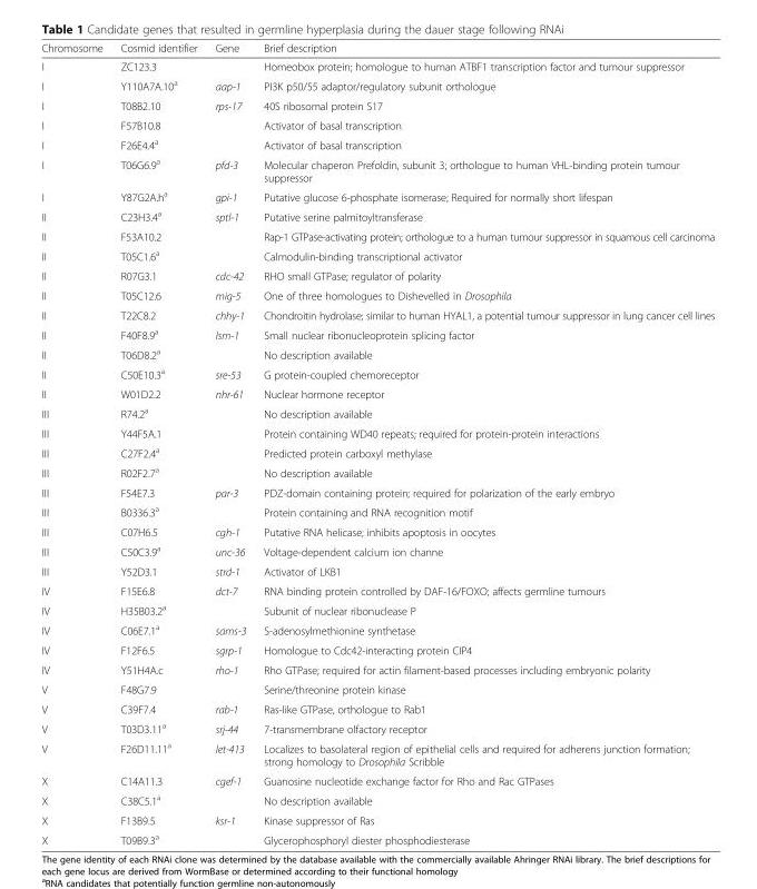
<table><thead><tr><td>Chromosome</td><td>Cosmid identifier</td><td>Gene</td><td>Brief description</td></tr></thead><tbody><tr><td>I</td><td>ZC123.3</td><td></td><td>Homeobox protein; homologue to human ATBF1 transcription factor and tumour suppressor</td></tr><tr><td>I</td><td>Y110A7A.10<sup>a</sup></td><td>aap-1</td><td>PI3K p50/55 adaptor/regulatory subunit orthologue</td></tr><tr><td>I</td><td>T08B2.10</td><td>rps-17</td><td>40S ribosomal protein S17</td></tr><tr><td>I</td><td>F57B10.8</td><td></td><td>Activator of basal transcription</td></tr><tr><td>I</td><td>F26E4.4<sup>a</sup></td><td></td><td>Activator of basal transcription</td></tr><tr><td>I</td><td>T06G6.9<sup>a</sup></td><td>pfd-3</td><td>Molecular chaperon Prefoldin, subunit 3; orthologue to human VHL-binding protein tumour suppressor</td></tr><tr><td>I</td><td>Y87G2A.h<sup>a</sup></td><td>gpi-1</td><td>Putative glucose 6-phosphate isomerase; Required for normally short lifespan</td></tr><tr><td>II</td><td>C23H3.4<sup>a</sup></td><td>sptl-1</td><td>Putative serine palmitoyltransferase</td></tr><tr><td>II</td><td>F53A10.2</td><td></td><td>Rap-1 GTPase-activating protein; orthologue to a human tumour suppressor in squamous cell carcinoma</td></tr><tr><td>II</td><td>T05C1.6<sup>a</sup></td><td></td><td>Calmodulin-binding transcriptional activator</td></tr><tr><td>II</td><td>R07G3.1</td><td>cdc-42</td><td>RHO small GTPase; regulator of polarity</td></tr><tr><td>II</td><td>T05C12.6</td><td>mig-5</td><td>One of three homologues to Dishevelled in Drosophila</td></tr><tr><td>II</td><td>T22C8.2</td><td>chhy-1</td><td>Chondroitin hydrolase; similar to human HYAL1, a potential tumour suppressor in lung cancer cell lines</td></tr><tr><td>II</td><td>F40F8.9<sup>a</sup></td><td>lsm-1</td><td>Small nuclear ribonucleoprotein splicing factor</td></tr><tr><td>II</td><td>T06D8.2<sup>a</sup></td><td></td><td>No description available</td></tr><tr><td>II</td><td>C50E10.3<sup>a</sup></td><td>sre-53</td><td>G protein-coupled chemoreceptor</td></tr><tr><td>II</td><td>W01D2.2</td><td>nhr-61</td><td>Nuclear hormone receptor</td></tr><tr><td>III</td><td>R74.2<sup>a</sup></td><td></td><td>No description available</td></tr><tr><td>III</td><td>Y44F5A.1</td><td></td><td>Protein containing WD40 repeats; required for protein-protein interactions</td></tr><tr><td>III</td><td>C27F2.4<sup>a</sup></td><td></td><td>Predicted protein carboxyl methylase</td></tr><tr><td>III</td><td>R02F2.7<sup>a</sup></td><td></td><td>No description available</td></tr><tr><td>III</td><td>F54E7.3</td><td>par-3</td><td>PDZ-domain containing protein; required for polarization of the early embryo</td></tr><tr><td>III</td><td>B0336.3<sup>a</sup></td><td></td><td>Protein containing and RNA recognition motif</td></tr><tr><td>III</td><td>C07H6.5</td><td>cgh-1</td><td>Putative RNA helicase; inhibits apoptosis in oocytes</td></tr><tr><td>III</td><td>C50C3.9<sup>a</sup></td><td>unc-36</td><td>Voltage-dependent calcium ion channe</td></tr><tr><td>III</td><td>Y52D3.1</td><td>strd-1</td><td>Activator of LKB1</td></tr><tr><td>IV</td><td>F15E6.8</td><td>dct-7</td><td>RNA binding protein controlled by DAF-16/FOXO; affects germline tumours</td></tr><tr><td>IV</td><td>H35B03.2<sup>a</sup></td><td></td><td>Subunit of nuclear ribonuclease P</td></tr><tr><td>IV</td><td>C06E7.1<sup>a</sup></td><td>sams-3</td><td>S-adenosylmethionine synthetase</td></tr><tr><td>IV</td><td>F12F6.5</td><td>sgrp-1</td><td>Homologue to Cdc42-interacting protein CIP4</td></tr><tr><td>IV</td><td>Y51H4A.c</td><td>rho-1</td><td>Rho GTPase; required for actin filament-based processes including embryonic polarity</td></tr><tr><td>V</td><td>F48G7.9</td><td></td><td>Serine/threonine protein kinase</td></tr><tr><td>V</td><td>C39F7.4</td><td>rab-1</td><td>Ras-like GTPase, orthologue to Rab1</td></tr><tr><td>V</td><td>T03D3.11<sup>a</sup></td><td>srj-44</td><td>7-transmembrane olfactory receptor</td></tr><tr><td>V</td><td>F26D11.11<sup>a</sup></td><td>let-413</td><td>Localizes to basolateral region of epithelial cells and required for adherens junction formation; strong homology to Drosophila Scribble</td></tr><tr><td>X</td><td>C14A11.3</td><td>cgef-1</td><td>Guanosine nucleotide exchange factor for Rho and Rac GTPases</td></tr><tr><td>X</td><td>C38C5.1<sup>a</sup></td><td></td><td>No description available</td></tr><tr><td>X</td><td>F13B9.5</td><td>ksr-1</td><td>Kinase suppressor of Ras</td></tr><tr><td>X</td><td>T09B9.3<sup>a</sup></td><td></td><td>Glycerophosphoryl diester phosphodiesterase</td></tr></tbody></table>